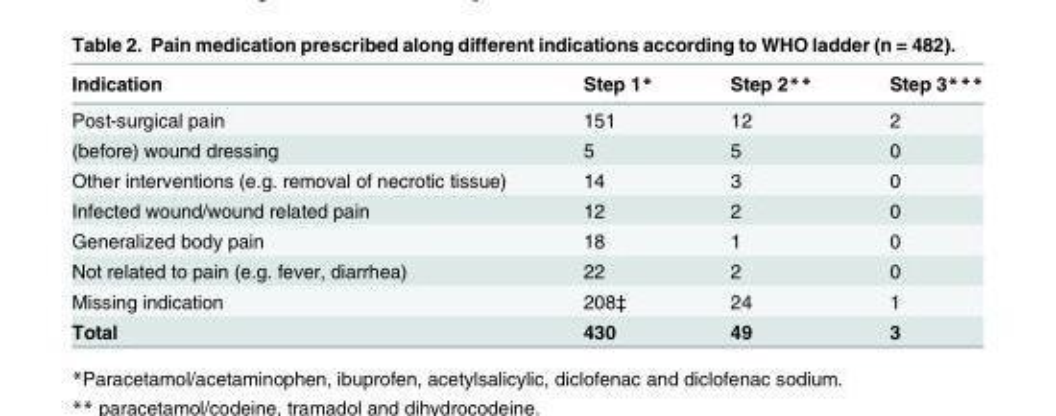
<table><thead><tr><td>Indication</td><td>Step 1*</td><td>Step 2**</td><td>Step 3***</td></tr></thead><tbody><tr><td>Post-surgical pain</td><td>151</td><td>12</td><td>2</td></tr><tr><td>(before) wound dressing</td><td>5</td><td>5</td><td>0</td></tr><tr><td>Other interventions (e.g. removal of necrotic tissue)</td><td>14</td><td>3</td><td>0</td></tr><tr><td>Infected wound/wound related pain</td><td>12</td><td>2</td><td>0</td></tr><tr><td>Generalized body pain</td><td>18</td><td>1</td><td>0</td></tr><tr><td>Not related to pain (e.g. fever, diarrhea)</td><td>22</td><td>2</td><td>0</td></tr><tr><td>Missing indication</td><td>208‡</td><td>24</td><td>1</td></tr><tr><td>Total</td><td>430</td><td>49</td><td>3</td></tr></tbody></table>